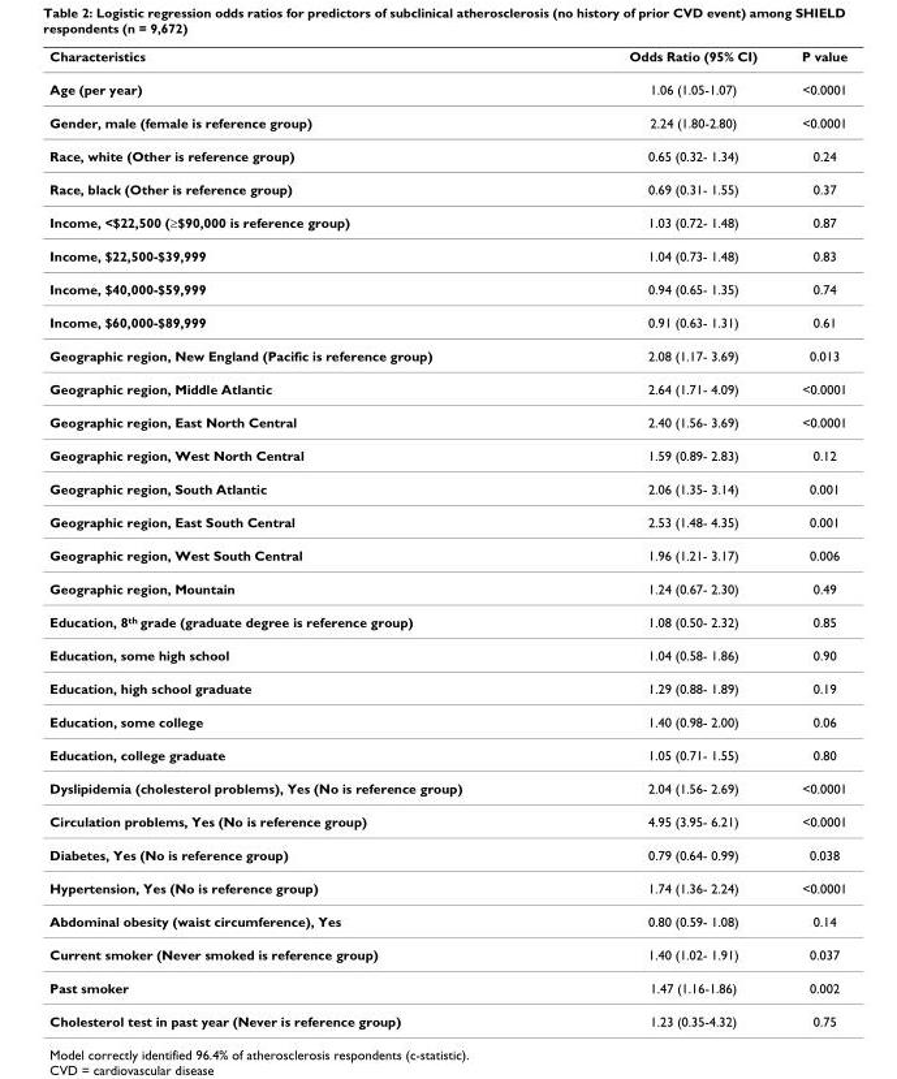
<table><thead><tr><td>Characteristics</td><td>Odds Ratio (95% CI)</td><td>P value</td></tr></thead><tbody><tr><td>Age (per year)</td><td>1.06 (1.05-1.07)</td><td>&lt;0.0001</td></tr><tr><td>Gender, male (female is reference group)</td><td>2.24 (1.80-2.80)</td><td>&lt;0.0001</td></tr><tr><td>Race, white (Other is reference group)</td><td>0.65 (0.32- 1.34)</td><td>0.24</td></tr><tr><td>Race, black (Other is reference group)</td><td>0.69 (0.31- 1.55)</td><td>0.37</td></tr><tr><td>Income, &lt;$22,500 (≥$90,000 is reference group)</td><td>1.03 (0.72- 1.48)</td><td>0.87</td></tr><tr><td>Income, $22,500-$39,999</td><td>1.04 (0.73- 1.48)</td><td>0.83</td></tr><tr><td>Income, $40,000-$59,999</td><td>0.94 (0.65- 1.35)</td><td>0.74</td></tr><tr><td>Income, $60,000-$89,999</td><td>0.91 (0.63- 1.31)</td><td>0.61</td></tr><tr><td>Geographic region, New England (Pacific is reference group)</td><td>2.08 (1.17- 3.69)</td><td>0.013</td></tr><tr><td>Geographic region, Middle Atlantic</td><td>2.64 (1.71- 4.09)</td><td>&lt;0.0001</td></tr><tr><td>Geographic region, East North Central</td><td>2.40 (1.56- 3.69)</td><td>&lt;0.0001</td></tr><tr><td>Geographic region, West North Central</td><td>1.59 (0.89- 2.83)</td><td>0.12</td></tr><tr><td>Geographic region, South Atlantic</td><td>2.06 (1.35- 3.14)</td><td>0.001</td></tr><tr><td>Geographic region, East South Central</td><td>2.53 (1.48- 4.35)</td><td>0.001</td></tr><tr><td>Geographic region, West South Central</td><td>1.96 (1.21- 3.17)</td><td>0.006</td></tr><tr><td>Geographic region, Mountain</td><td>1.24 (0.67- 2.30)</td><td>0.49</td></tr><tr><td>Education, 8<sup>th</sup> grade (graduate degree is reference group)</td><td>1.08 (0.50- 2.32)</td><td>0.85</td></tr><tr><td>Education, some high school</td><td>1.04 (0.58- 1.86)</td><td>0.90</td></tr><tr><td>Education, high school graduate</td><td>1.29 (0.88- 1.89)</td><td>0.19</td></tr><tr><td>Education, some college</td><td>1.40 (0.98- 2.00)</td><td>0.06</td></tr><tr><td>Education, college graduate</td><td>1.05 (0.71- 1.55)</td><td>0.80</td></tr><tr><td>Dyslipidemia (cholesterol problems), Yes (No is reference group)</td><td>2.04 (1.56- 2.69)</td><td>&lt;0.0001</td></tr><tr><td>Circulation problems, Yes (No is reference group)</td><td>4.95 (3.95- 6.21)</td><td>&lt;0.0001</td></tr><tr><td>Diabetes, Yes (No is reference group)</td><td>0.79 (0.64- 0.99)</td><td>0.038</td></tr><tr><td>Hypertension, Yes (No is reference group)</td><td>1.74 (1.36- 2.24)</td><td>&lt;0.0001</td></tr><tr><td>Abdominal obesity (waist circumference), Yes</td><td>0.80 (0.59- 1.08)</td><td>0.14</td></tr><tr><td>Current smoker (Never smoked is reference group)</td><td>1.40 (1.02- 1.91)</td><td>0.037</td></tr><tr><td>Past smoker</td><td>1.47 (1.16-1.86)</td><td>0.002</td></tr><tr><td>Cholesterol test in past year (Never is reference group)</td><td>1.23 (0.35-4.32)</td><td>0.75</td></tr></tbody></table>